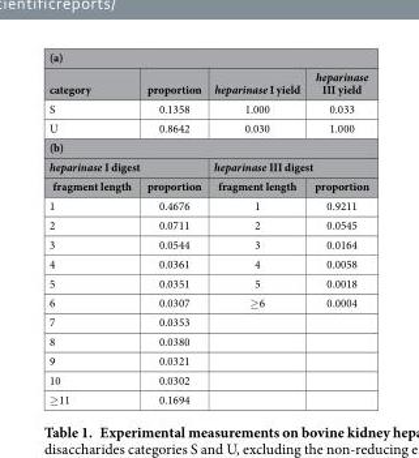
<table><thead><tr><td colspan="4">(a)</td></tr><tr><td>category</td><td>proportion</td><td>heparinase I yield</td><td>heparinase III yield</td></tr></thead><tbody><tr><td>S</td><td>0.1358</td><td>1.000</td><td>0.033</td></tr><tr><td>U</td><td>0.8642</td><td>0.030</td><td>1.000</td></tr><tr><td colspan="4">(b)</td></tr><tr><td colspan="2">heparinase I digest</td><td colspan="2">heparinase III digest</td></tr><tr><td>fragment length</td><td>proportion</td><td>fragment length</td><td>proportion</td></tr><tr><td>1</td><td>0.4676</td><td>1</td><td>0.9211</td></tr><tr><td>2</td><td>0.0711</td><td>2</td><td>0.0545</td></tr><tr><td>3</td><td>0.0544</td><td>3</td><td>0.0164</td></tr><tr><td>4</td><td>0.0361</td><td>4</td><td>0.0058</td></tr><tr><td>5</td><td>0.0351</td><td>5</td><td>0.0018</td></tr><tr><td>6</td><td>0.0307</td><td>≥ 6</td><td>0.0004</td></tr><tr><td>7</td><td>0.0353</td><td></td><td></td></tr><tr><td>8</td><td>0.0380</td><td></td><td></td></tr><tr><td>9</td><td>0.0321</td><td></td><td></td></tr><tr><td>10</td><td>0.0302</td><td></td><td></td></tr><tr><td>≥ 11</td><td>0.1694</td><td></td><td></td></tr></tbody></table>